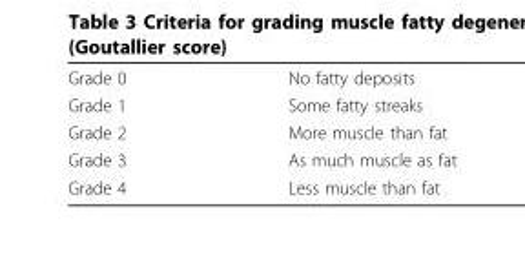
<table><tbody><tr><td>Grade 0</td><td>No fatty deposits</td></tr><tr><td>Grade 1</td><td>Some fatty streaks</td></tr><tr><td>Grade 2</td><td>More muscle than fat</td></tr><tr><td>Grade 3</td><td>As much muscle as fat</td></tr><tr><td>Grade 4</td><td>Less muscle than fat</td></tr></tbody></table>